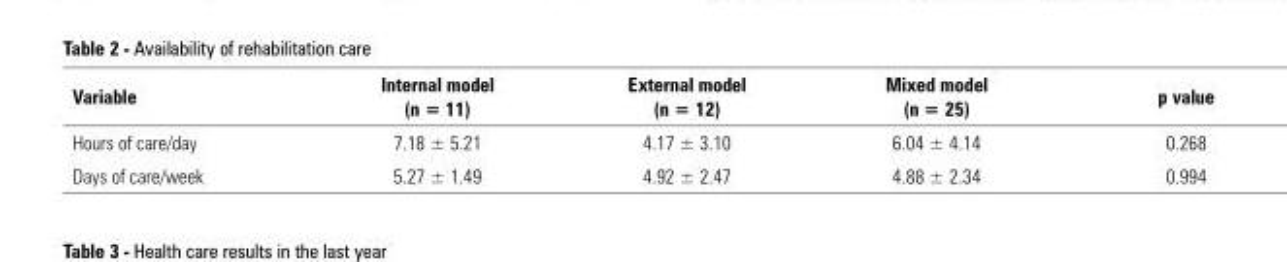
<table><thead><tr><td>Variable</td><td>Internal model (n = 11)</td><td>External model (n = 12)</td><td>Mixed model (n = 25)</td><td>p value</td></tr></thead><tbody><tr><td>Hours of care/day</td><td>7.18 ± 5.21</td><td>4.17 ± 3.10</td><td>6.04 ± 4.14</td><td>0.268</td></tr><tr><td>Days of care/week</td><td>5.27 ± 1.49</td><td>4.92 ± 2.47</td><td>4.88 ± 2.34</td><td>0.994</td></tr></tbody></table>